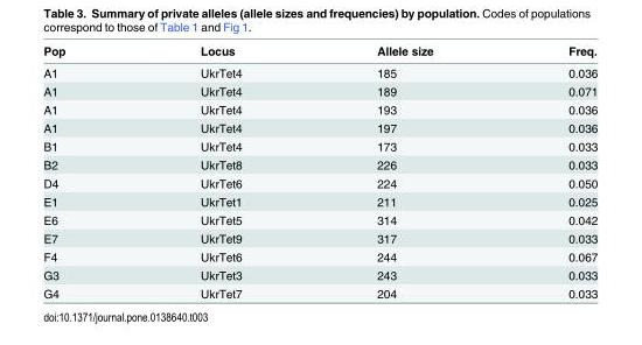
<table><thead><tr><td>Pop</td><td>Locus</td><td>Allele size</td><td>Freq.</td></tr></thead><tbody><tr><td>A1</td><td>UkrTet4</td><td>185</td><td>0.036</td></tr><tr><td>A1</td><td>UkrTet4</td><td>189</td><td>0.071</td></tr><tr><td>A1</td><td>UkrTet4</td><td>193</td><td>0.036</td></tr><tr><td>A1</td><td>UkrTet4</td><td>197</td><td>0.036</td></tr><tr><td>B1</td><td>UkrTet4</td><td>173</td><td>0.033</td></tr><tr><td>B2</td><td>UkrTet8</td><td>226</td><td>0.033</td></tr><tr><td>D4</td><td>UkrTet6</td><td>224</td><td>0.050</td></tr><tr><td>E1</td><td>UkrTet1</td><td>211</td><td>0.025</td></tr><tr><td>E6</td><td>UkrTet5</td><td>314</td><td>0.042</td></tr><tr><td>E7</td><td>UkrTet9</td><td>317</td><td>0.033</td></tr><tr><td>F4</td><td>UkrTet6</td><td>244</td><td>0.067</td></tr><tr><td>G3</td><td>UkrTet3</td><td>243</td><td>0.033</td></tr><tr><td>G4</td><td>UkrTet7</td><td>204</td><td>0.033</td></tr></tbody></table>